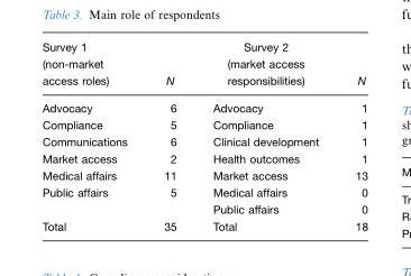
<table><thead><tr><td>Survey 1 (non-market access roles)</td><td>N</td><td>Survey 2 (market access responsibilities)</td><td>N</td></tr></thead><tbody><tr><td>Advocacy</td><td>6</td><td>Advocacy</td><td>1</td></tr><tr><td>Compliance</td><td>5</td><td>Compliance</td><td>1</td></tr><tr><td>Communications</td><td>6</td><td>Clinical development</td><td>1</td></tr><tr><td>Market access</td><td>2</td><td>Health outcomes</td><td>1</td></tr><tr><td>Medical affairs</td><td>11</td><td>Market access</td><td>13</td></tr><tr><td rowspan="2">Public affairs</td><td>5</td><td>Medical affairs</td><td>0</td></tr><tr><td></td><td>Public affairs</td><td>0</td></tr><tr><td>Total</td><td>35</td><td>Total</td><td>18</td></tr></tbody></table>